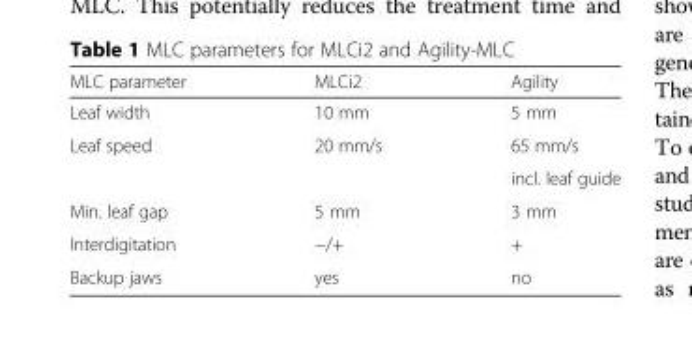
<table><thead><tr><td>MLC parameter</td><td>MLCi2</td><td>Agility</td></tr></thead><tbody><tr><td>Leaf width</td><td>10 mm</td><td>5 mm</td></tr><tr><td rowspan="2">Leaf speed</td><td rowspan="2">20 mm/s</td><td>65 mm/s</td></tr><tr><td>incl. leaf guide</td></tr><tr><td>Min. leaf gap</td><td>5 mm</td><td>3 mm</td></tr><tr><td>Interdigitation</td><td>−/+</td><td>+</td></tr><tr><td>Backup jaws</td><td>yes</td><td>no</td></tr></tbody></table>